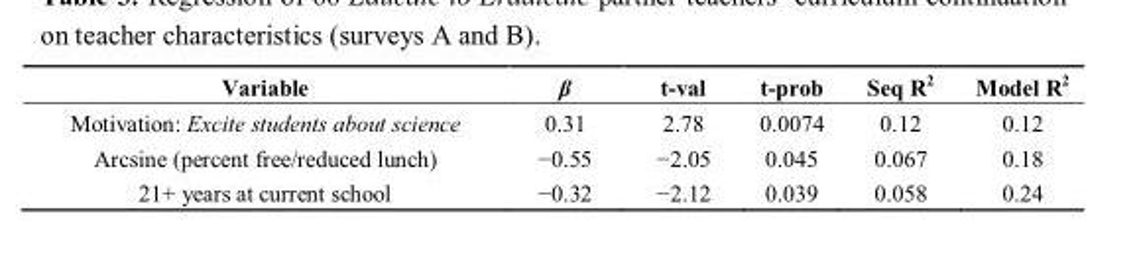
<table><thead><tr><td>Variable</td><td>β</td><td>t-val</td><td>t-prob</td><td>Seq R<sup>2</sup></td><td>Model R<sup>2</sup></td></tr></thead><tbody><tr><td>Motivation: Excite students about science</td><td>0.31</td><td>2.78</td><td>0.0074</td><td>0.12</td><td>0.12</td></tr><tr><td>Arcsine (percent free/reduced lunch)</td><td>−0.55</td><td>−2.05</td><td>0.045</td><td>0.067</td><td>0.18</td></tr><tr><td>21+ years at current school</td><td>−0.32</td><td>−2.12</td><td>0.039</td><td>0.058</td><td>0.24</td></tr></tbody></table>